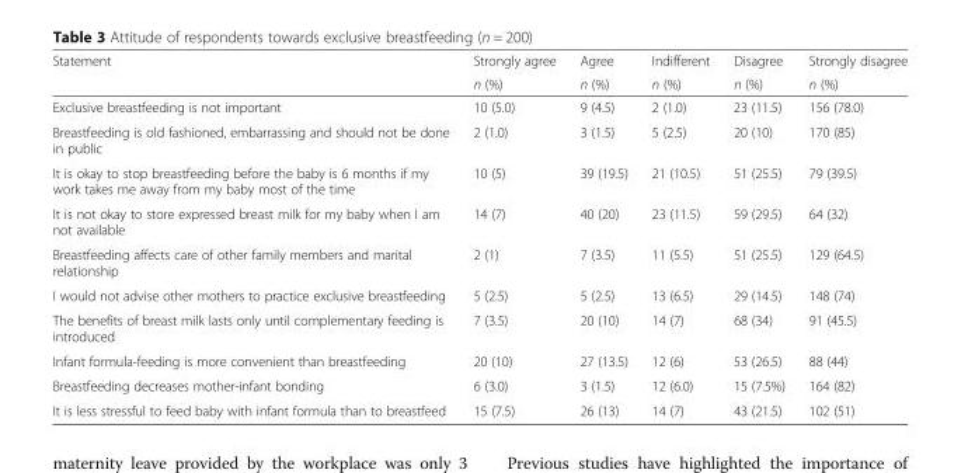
<table><thead><tr><td rowspan="2">Statement</td><td rowspan="2">Strongly agree n (%)</td><td rowspan="2">Agree n (%)</td><td rowspan="2">Indifferent n (%)</td><td rowspan="2">Disagree n (%)</td><td rowspan="2">Strongly disagree n (%)</td></tr><tr></tr></thead><tbody><tr><td>Exclusive breastfeeding is not important</td><td>10 (5.0)</td><td>9 (4.5)</td><td>2 (1.0)</td><td>23 (11.5)</td><td>156 (78.0)</td></tr><tr><td>Breastfeeding is old fashioned, embarrassing and should not be done in public</td><td>2 (1.0)</td><td>3 (1.5)</td><td>5 (2.5)</td><td>20 (10)</td><td>170 (85)</td></tr><tr><td>It is okay to stop breastfeeding before the baby is 6 months if my work takes me away from my baby most of the time</td><td>10 (5)</td><td>39 (19.5)</td><td>21 (10.5)</td><td>51 (25.5)</td><td>79 (39.5)</td></tr><tr><td>It is not okay to store expressed breast milk for my baby when I am not available</td><td>14 (7)</td><td>40 (20)</td><td>23 (11.5)</td><td>59 (29.5)</td><td>64 (32)</td></tr><tr><td>Breastfeeding affects care of other family members and marital relationship</td><td>2 (1)</td><td>7 (3.5)</td><td>11 (5.5)</td><td>51 (25.5)</td><td>129 (64.5)</td></tr><tr><td>I would not advise other mothers to practice exclusive breastfeeding</td><td>5 (2.5)</td><td>5 (2.5)</td><td>13 (6.5)</td><td>29 (14.5)</td><td>148 (74)</td></tr><tr><td>The benefits of breast milk lasts only until complementary feeding is introduced</td><td>7 (3.5)</td><td>20 (10)</td><td>14 (7)</td><td>68 (34)</td><td>91 (45.5)</td></tr><tr><td>Infant formula-feeding is more convenient than breastfeeding</td><td>20 (10)</td><td>27 (13.5)</td><td>12 (6)</td><td>53 (26.5)</td><td>88 (44)</td></tr><tr><td>Breastfeeding decreases mother-infant bonding</td><td>6 (3.0)</td><td>3 (1.5)</td><td>12 (6.0)</td><td>15 (7.5%)</td><td>164 (82)</td></tr><tr><td>It is less stressful to feed baby with infant formula than to breastfeed</td><td>15 (7.5)</td><td>26 (13)</td><td>14 (7)</td><td>43 (21.5)</td><td>102 (51)</td></tr></tbody></table>